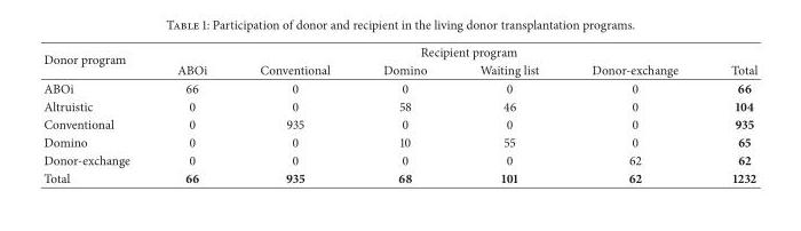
<table><thead><tr><td rowspan="2">Donor program</td><td colspan="6">Recipient program</td></tr><tr><td>ABOi</td><td>Conventional</td><td>Domino</td><td>Waiting list</td><td>Donor-exchange</td><td>Total</td></tr></thead><tbody><tr><td>ABOi</td><td>66</td><td>0</td><td>0</td><td>0</td><td>0</td><td>66</td></tr><tr><td>Altruistic</td><td>0</td><td>0</td><td>58</td><td>46</td><td>0</td><td>104</td></tr><tr><td>Conventional</td><td>0</td><td>935</td><td>0</td><td>0</td><td>0</td><td>935</td></tr><tr><td>Domino</td><td>0</td><td>0</td><td>10</td><td>55</td><td>0</td><td>65</td></tr><tr><td>Donor-exchange</td><td>0</td><td>0</td><td>0</td><td>0</td><td>62</td><td>62</td></tr><tr><td>Total</td><td>66</td><td>935</td><td>68</td><td>101</td><td>62</td><td>1232</td></tr></tbody></table>